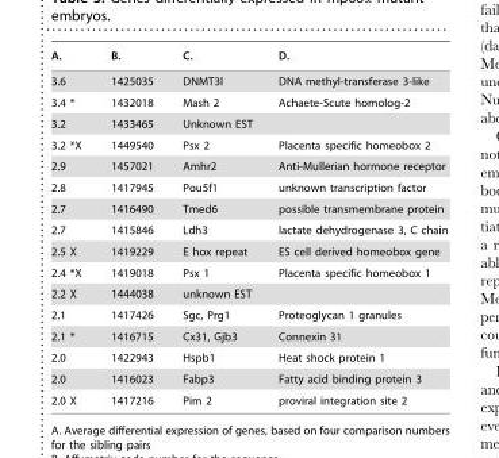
<table><thead><tr><td>A.</td><td>B.</td><td>C.</td><td>D.</td></tr></thead><tbody><tr><td>3.6</td><td>1425035</td><td>DNMT3l</td><td>DNA methyl-transferase 3-like</td></tr><tr><td>3.4 *</td><td>1432018</td><td>Mash 2</td><td>Achaete-Scute homolog-2</td></tr><tr><td>3.2</td><td>1433465</td><td>Unknown EST</td><td></td></tr><tr><td>3.2 *X</td><td>1449540</td><td>Psx 2</td><td>Placenta specific homeobox 2</td></tr><tr><td>2.9</td><td>1457021</td><td>Amhr2</td><td>Anti-Mullerian hormone receptor</td></tr><tr><td>2.8</td><td>1417945</td><td>Pou5f1</td><td>unknown transcription factor</td></tr><tr><td>2.7</td><td>1416490</td><td>Tmed6</td><td>possible transmembrane protein</td></tr><tr><td>2.7</td><td>1415846</td><td>Ldh3</td><td>lactate dehydrogenase 3, C chain</td></tr><tr><td>2.5 X</td><td>1419229</td><td>E hox repeat</td><td>ES cell derived homeobox gene</td></tr><tr><td>2.4 *X</td><td>1419018</td><td>Psx 1</td><td>Placenta specific homeobox 1</td></tr><tr><td>2.2 X</td><td>1444038</td><td>unknown EST</td><td></td></tr><tr><td>2.1</td><td>1417426</td><td>Sgc, Prg1</td><td>Proteoglycan 1 granules</td></tr><tr><td>2.1 *</td><td>1416715</td><td>Cx31, Gjb3</td><td>Connexin 31</td></tr><tr><td>2.0</td><td>1422943</td><td>Hspb1</td><td>Heat shock protein 1</td></tr><tr><td>2.0</td><td>1416023</td><td>Fabp3</td><td>Fatty acid binding protein 3</td></tr><tr><td>2.0 X</td><td>1417216</td><td>Pim 2</td><td>proviral integration site 2</td></tr></tbody></table>